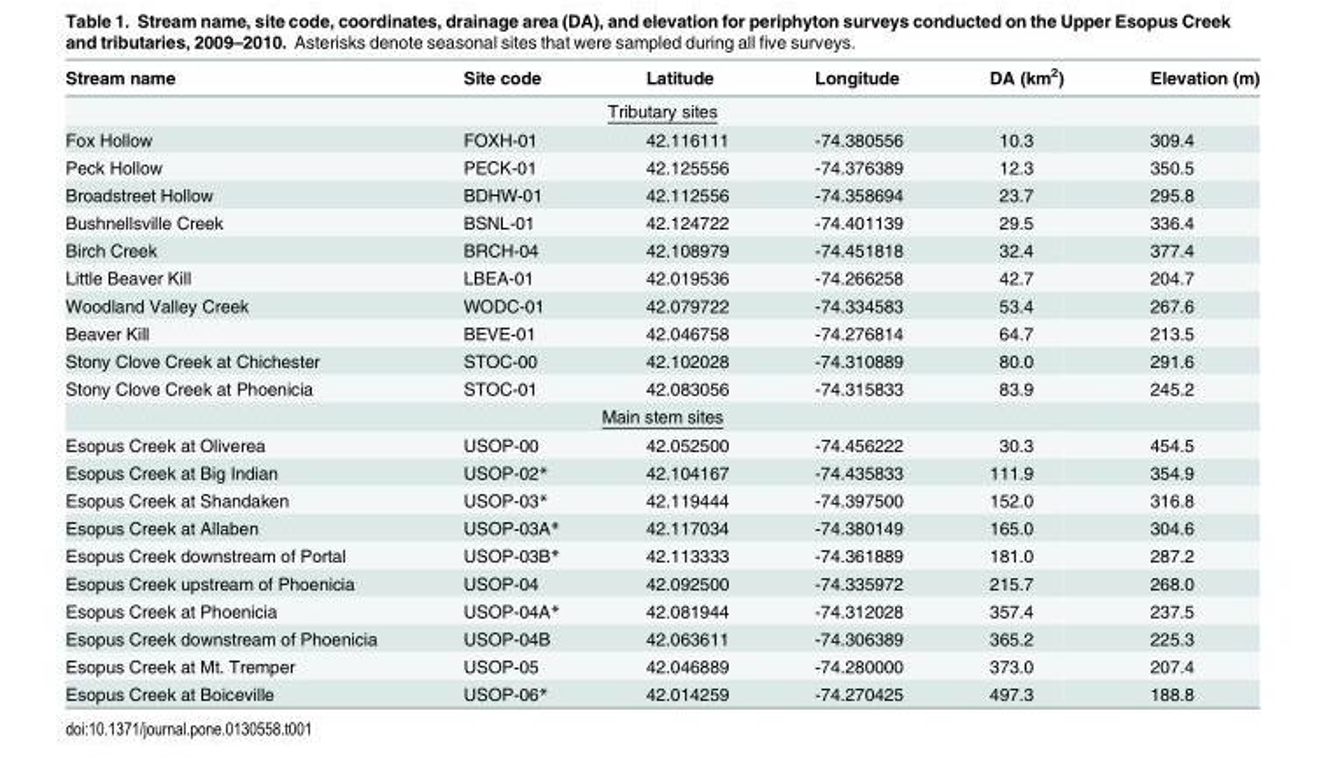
<table><thead><tr><td>Stream name</td><td>Site code</td><td>Latitude</td><td>Longitude</td><td>DA (km<sup>2</sup>)</td><td>Elevation (m)</td></tr></thead><tbody><tr><td colspan="6">Tributary sites</td></tr><tr><td>Fox Hollow</td><td>FOXH-01</td><td>42.116111</td><td>-74.380556</td><td>10.3</td><td>309.4</td></tr><tr><td>Peck Hollow</td><td>PECK-01</td><td>42.125556</td><td>-74.376389</td><td>12.3</td><td>350.5</td></tr><tr><td>Broadstreet Hollow</td><td>BDHW-01</td><td>42.112556</td><td>-74.358694</td><td>23.7</td><td>295.8</td></tr><tr><td>Bushnellsville Creek</td><td>BSNL-01</td><td>42.124722</td><td>-74.401139</td><td>29.5</td><td>336.4</td></tr><tr><td>Birch Creek</td><td>BRCH-04</td><td>42.108979</td><td>-74.451818</td><td>32.4</td><td>377.4</td></tr><tr><td>Little Beaver Kill</td><td>LBEA-01</td><td>42.019536</td><td>-74.266258</td><td>42.7</td><td>204.7</td></tr><tr><td>Woodland Valley Creek</td><td>WODC-01</td><td>42.079722</td><td>-74.334583</td><td>53.4</td><td>267.6</td></tr><tr><td>Beaver Kill</td><td>BEVE-01</td><td>42.046758</td><td>-74.276814</td><td>64.7</td><td>213.5</td></tr><tr><td>Stony Clove Creek at Chichester</td><td>STOC-00</td><td>42.102028</td><td>-74.310889</td><td>80.0</td><td>291.6</td></tr><tr><td>Stony Clove Creek at Phoenicia</td><td>STOC-01</td><td>42.083056</td><td>-74.315833</td><td>83.9</td><td>245.2</td></tr><tr><td colspan="6">Main stem sites</td></tr><tr><td>Esopus Creek at Oliverea</td><td>USOP-00</td><td>42.052500</td><td>-74.456222</td><td>30.3</td><td>454.5</td></tr><tr><td>Esopus Creek at Big Indian</td><td>USOP-02*</td><td>42.104167</td><td>-74.435833</td><td>111.9</td><td>354.9</td></tr><tr><td>Esopus Creek at Shandaken</td><td>USOP-03*</td><td>42.119444</td><td>-74.397500</td><td>152.0</td><td>316.8</td></tr><tr><td>Esopus Creek at Allaben</td><td>USOP-03A*</td><td>42.117034</td><td>-74.380149</td><td>165.0</td><td>304.6</td></tr><tr><td>Esopus Creek downstream of Portal</td><td>USOP-03B*</td><td>42.113333</td><td>-74.361889</td><td>181.0</td><td>287.2</td></tr><tr><td>Esopus Creek upstream of Phoenicia</td><td>USOP-04</td><td>42.092500</td><td>-74.335972</td><td>215.7</td><td>268.0</td></tr><tr><td>Esopus Creek at Phoenicia</td><td>USOP-04A*</td><td>42.081944</td><td>-74.312028</td><td>357.4</td><td>237.5</td></tr><tr><td>Esopus Creek downstream of Phoenicia</td><td>USOP-04B</td><td>42.063611</td><td>-74.306389</td><td>365.2</td><td>225.3</td></tr><tr><td>Esopus Creek at Mt. Tremper</td><td>USOP-05</td><td>42.046889</td><td>-74.280000</td><td>373.0</td><td>207.4</td></tr><tr><td>Esopus Creek at Boiceville</td><td>USOP-06*</td><td>42.014259</td><td>-74.270425</td><td>497.3</td><td>188.8</td></tr></tbody></table>